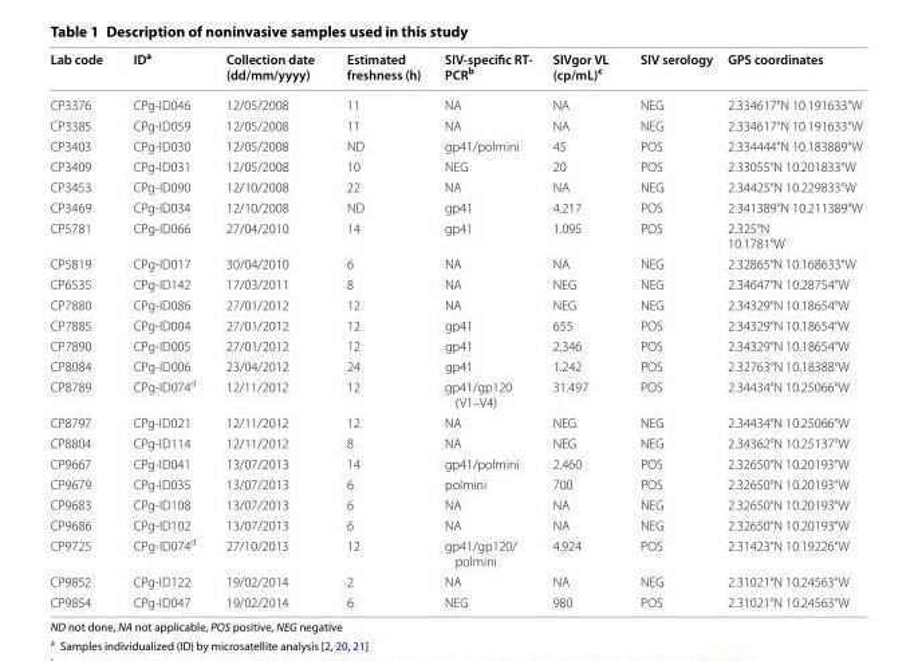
<table><thead><tr><td>Lab code</td><td>ID<sup>a</sup></td><td>Collection date (dd/mm/yyyy)</td><td>Estimated freshness (h)</td><td>SIV-specific RT- PCR<sup>b</sup></td><td>SIVgor VL (cp/mL)<sup>c</sup></td><td>SIV serology</td><td>GPS coordinates</td></tr></thead><tbody><tr><td>CP3376</td><td>CPg-ID046</td><td>12/05/2008</td><td>11</td><td>NA</td><td>NA</td><td>NEG</td><td>2.334617°N 10.191633°W</td></tr><tr><td>CP3385</td><td>CPg-ID059</td><td>12/05/2008</td><td>11</td><td>NA</td><td>NA</td><td>NEG</td><td>2.334617°N 10.191633°W</td></tr><tr><td>CP3403</td><td>CPg-ID030</td><td>12/05/2008</td><td>ND</td><td>gp41/polmini</td><td>45</td><td>POS</td><td>2.334444°N 10.183889°W</td></tr><tr><td>CP3409</td><td>CPg-ID031</td><td>12/05/2008</td><td>10</td><td>NEG</td><td>20</td><td>POS</td><td>2.33055°N 10.201833°W</td></tr><tr><td>CP3453</td><td>CPg-ID090</td><td>12/10/2008</td><td>22</td><td>NA</td><td>NA</td><td>NEG</td><td>2.34425°N 10.229833°W</td></tr><tr><td>CP3469</td><td>CPg-ID034</td><td>12/10/2008</td><td>ND</td><td>gp41</td><td>4.217</td><td>POS</td><td>2.341389°N 10.211389°W</td></tr><tr><td>CP5781</td><td>CPg-ID066</td><td>27/04/2010</td><td>14</td><td>gp41</td><td>1.095</td><td>POS</td><td>2.325°N 10.1781°W</td></tr><tr><td>CP5819</td><td>CPg-ID017</td><td>30/04/2010</td><td>6</td><td>NA</td><td>NA</td><td>NEG</td><td>2.32865°N 10.168633°W</td></tr><tr><td>CP6535</td><td>CPg-ID142</td><td>17/03/2011</td><td>8</td><td>NA</td><td>NEG</td><td>NEG</td><td>2.34647°N 10.28754°W</td></tr><tr><td>CP7880</td><td>CPg-ID086</td><td>27/01/2012</td><td>12</td><td>NA</td><td>NEG</td><td>NEG</td><td>2.34329°N 10.18654°W</td></tr><tr><td>CP7885</td><td>CPg-ID004</td><td>27/01/2012</td><td>12</td><td>gp41</td><td>655</td><td>POS</td><td>2.34329°N 10.18654°W</td></tr><tr><td>CP7890</td><td>CPg-ID005</td><td>27/01/2012</td><td>12</td><td>gp41</td><td>2.346</td><td>POS</td><td>2.34329°N 10.18654°W</td></tr><tr><td>CP8084</td><td>CPg-ID006</td><td>23/04/2012</td><td>24</td><td>gp41</td><td>1.242</td><td>POS</td><td>2.32763°N 10.18388°W</td></tr><tr><td>CP8789</td><td>CPg-ID074<sup>d</sup></td><td>12/11/2012</td><td>12</td><td>gp41/gp120 (V1–V4)</td><td>31.497</td><td>POS</td><td>2.34434°N 10.25066°W</td></tr><tr><td>CP8797</td><td>CPg-ID021</td><td>12/11/2012</td><td>12</td><td>NA</td><td>NEG</td><td>NEG</td><td>2.34434°N 10.25066°W</td></tr><tr><td>CP8804</td><td>CPg-ID114</td><td>12/11/2012</td><td>8</td><td>NA</td><td>NEG</td><td>NEG</td><td>2.34362°N 10.25137°W</td></tr><tr><td>CP9667</td><td>CPg-ID041</td><td>13/07/2013</td><td>14</td><td>gp41/polmini</td><td>2.460</td><td>POS</td><td>2.32650°N 10.20193°W</td></tr><tr><td>CP9679</td><td>CPg-ID035</td><td>13/07/2013</td><td>6</td><td>polmini</td><td>700</td><td>POS</td><td>2.32650°N 10.20193°W</td></tr><tr><td>CP9683</td><td>CPg-ID108</td><td>13/07/2013</td><td>6</td><td>NA</td><td>NA</td><td>NEG</td><td>2.32650°N 10.20193°W</td></tr><tr><td>CP9686</td><td>CPg-ID102</td><td>13/07/2013</td><td>6</td><td>NA</td><td>NA</td><td>NEG</td><td>2.32650°N 10.20193°W</td></tr><tr><td>CP9725</td><td>CPg-ID074<sup>d</sup></td><td>27/10/2013</td><td>12</td><td>gp41/gp120/ polmini</td><td>4.924</td><td>POS</td><td>2.31423°N 10.19226°W</td></tr><tr><td>CP9852</td><td>CPg-ID122</td><td>19/02/2014</td><td>2</td><td>NA</td><td>NA</td><td>NEG</td><td>2.31021°N 10.24563°W</td></tr><tr><td>CP9854</td><td>CPg-ID047</td><td>19/02/2014</td><td>6</td><td>NEG</td><td>980</td><td>POS</td><td>2.31021°N 10.24563°W</td></tr></tbody></table>